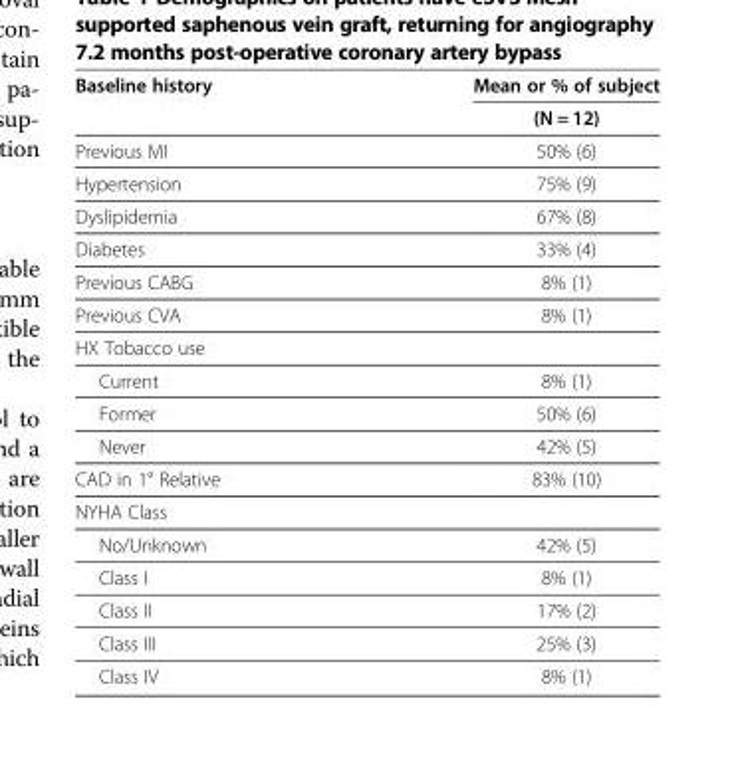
<table><thead><tr><td rowspan="2">Baseline history</td><td rowspan="2">Mean or % of subject (N = 12)</td></tr><tr></tr></thead><tbody><tr><td>Previous MI</td><td>50% (6)</td></tr><tr><td>Hypertension</td><td>75% (9)</td></tr><tr><td>Dyslipidemia</td><td>67% (8)</td></tr><tr><td>Diabetes</td><td>33% (4)</td></tr><tr><td>Previous CABG</td><td>8% (1)</td></tr><tr><td>Previous CVA</td><td>8% (1)</td></tr><tr><td colspan="2">HX Tobacco use</td></tr><tr><td>Current</td><td>8% (1)</td></tr><tr><td>Former</td><td>50% (6)</td></tr><tr><td>Never</td><td>42% (5)</td></tr><tr><td>CAD in 1° Relative</td><td>83% (10)</td></tr><tr><td colspan="2">NYHA Class</td></tr><tr><td>No/Unknown</td><td>42% (5)</td></tr><tr><td>Class I</td><td>8% (1)</td></tr><tr><td>Class II</td><td>17% (2)</td></tr><tr><td>Class III</td><td>25% (3)</td></tr><tr><td>Class IV</td><td>8% (1)</td></tr></tbody></table>